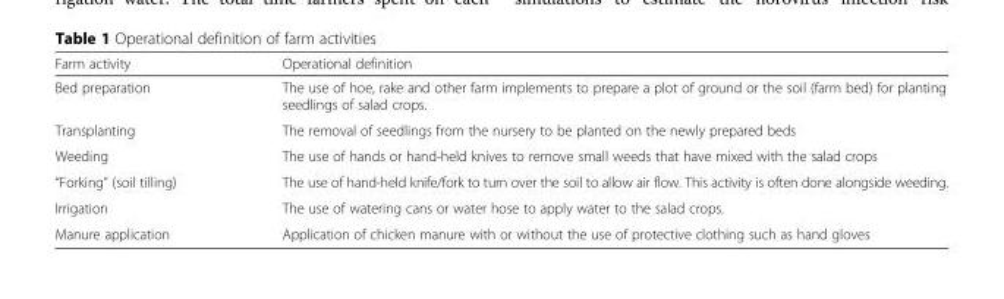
<table><thead><tr><td>Farm activity</td><td>Operational definition</td></tr></thead><tbody><tr><td>Bed preparation</td><td>The use of hoe, rake and other farm implements to prepare a plot of ground or the soil (farm bed) for planting seedlings of salad crops.</td></tr><tr><td>Transplanting</td><td>The removal of seedlings from the nursery to be planted on the newly prepared beds</td></tr><tr><td>Weeding</td><td>The use of hands or hand-held knives to remove small weeds that have mixed with the salad crops</td></tr><tr><td>“Forking” (soil tilling)</td><td>The use of hand-held knife/fork to turn over the soil to allow air flow. This activity is often done alongside weeding.</td></tr><tr><td>Irrigation</td><td>The use of watering cans or water hose to apply water to the salad crops.</td></tr><tr><td>Manure application</td><td>Application of chicken manure with or without the use of protective clothing such as hand gloves</td></tr></tbody></table>